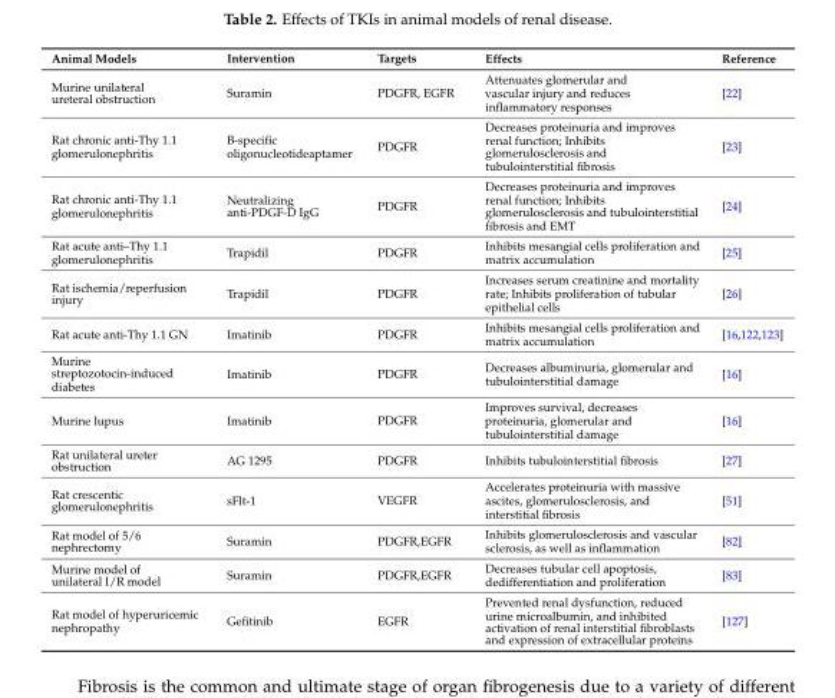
<table><thead><tr><td>Animal Models</td><td>Intervention</td><td>Targets</td><td>Effects</td><td>Reference</td></tr></thead><tbody><tr><td>Murine unilateral ureteral obstruction</td><td>Suramin</td><td>PDGFR, EGFR</td><td>Attenuates glomerular and vascular injury and reduces inflammatory responses</td><td>[22]</td></tr><tr><td>Rat chronic anti-Thy 1.1 glomerulonephritis</td><td>B-specific oligonucleotideaptamer</td><td>PDGFR</td><td>Decreases proteinuria and improves renal function; Inhibits glomerulosclerosis and tubulointerstitial fibrosis</td><td>[23]</td></tr><tr><td>Rat chronic anti-Thy 1.1 glomerulonephritis</td><td>Neutralizing anti-PDGF-D IgG</td><td>PDGFR</td><td>Decreases proteinuria and improves renal function; Inhibits glomerulosclerosis and tubulointerstitial fibrosis and EMT</td><td>[24]</td></tr><tr><td>Rat acute anti–Thy 1.1 glomerulonephritis</td><td>Trapidil</td><td>PDGFR</td><td>Inhibits mesangial cells proliferation and matrix accumulation</td><td>[25]</td></tr><tr><td>Rat ischemia/reperfusion injury</td><td>Trapidil</td><td>PDGFR</td><td>Increases serum creatinine and mortality rate; Inhibits proliferation of tubular epithelial cells</td><td>[26]</td></tr><tr><td>Rat acute anti-Thy 1.1 GN</td><td>Imatinib</td><td>PDGFR</td><td>Inhibits mesangial cells proliferation and matrix accumulation</td><td>[16,122,123]</td></tr><tr><td>Murine streptozotocin-induced diabetes</td><td>Imatinib</td><td>PDGFR</td><td>Decreases albuminuria, glomerular and tubulointerstitial damage</td><td>[16]</td></tr><tr><td>Murine lupus</td><td>Imatinib</td><td>PDGFR</td><td>Improves survival, decreases proteinuria, glomerular and tubulointerstitial damage</td><td>[16]</td></tr><tr><td>Rat unilateral ureter obstruction</td><td>AG 1295</td><td>PDGFR</td><td>Inhibits tubulointerstitial fibrosis</td><td>[27]</td></tr><tr><td>Rat crescentic glomerulonephritis</td><td>sFlt-1</td><td>VEGFR</td><td>Accelerates proteinuria with massive ascites, glomerulosclerosis, and interstitial fibrosis</td><td>[51]</td></tr><tr><td>Rat model of 5/6 nephrectomy</td><td>Suramin</td><td>PDGFR,EGFR</td><td>Inhibits glomerulosclerosis and vascular sclerosis, as well as inflammation</td><td>[82]</td></tr><tr><td>Murine model of unilateral I/R model</td><td>Suramin</td><td>PDGFR,EGFR</td><td>Decreases tubular cell apoptosis, dedifferentiation and proliferation</td><td>[83]</td></tr><tr><td>Rat model of hyperuricemic nephropathy</td><td>Gefitinib</td><td>EGFR</td><td>Prevented renal dysfunction, reduced urine microalbumin, and inhibited activation of renal interstitial fibroblasts and expression of extracellular proteins</td><td>[127]</td></tr></tbody></table>